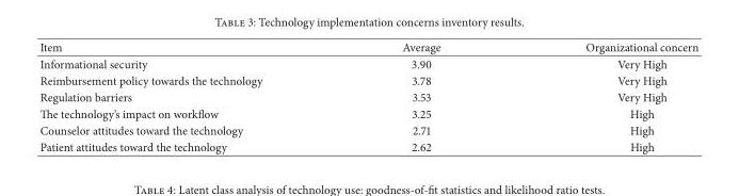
<table><thead><tr><td>Item</td><td>Average</td><td>Organizational concern</td></tr></thead><tbody><tr><td>Informational security</td><td>3.90</td><td>Very High</td></tr><tr><td>Reimbursement policy towards the technology</td><td>3.78</td><td>Very High</td></tr><tr><td>Regulation barriers</td><td>3.53</td><td>Very High</td></tr><tr><td>The technology’s impact on workflow</td><td>3.25</td><td>High</td></tr><tr><td>Counselor attitudes toward the technology</td><td>2.71</td><td>High</td></tr><tr><td>Patient attitudes toward the technology</td><td>2.62</td><td>High</td></tr></tbody></table>